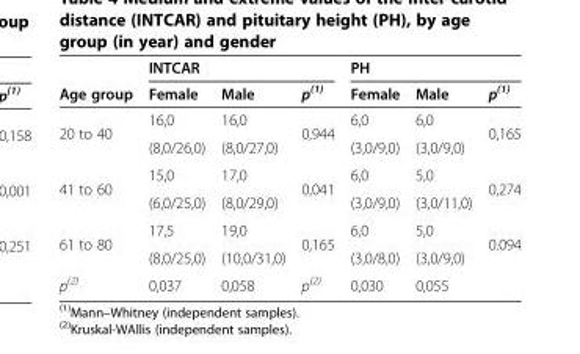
<table><thead><tr><td rowspan="2">Age group</td><td colspan="3">INTCAR</td><td colspan="3">PH</td></tr><tr><td>Female</td><td>Male</td><td>p<sup>(1)</sup></td><td>Female</td><td>Male</td><td>p<sup>(1)</sup></td></tr></thead><tbody><tr><td rowspan="2">20 to 40</td><td>16,0</td><td>16,0</td><td rowspan="2">0,944</td><td>6,0</td><td>6,0</td><td rowspan="2">0,165</td></tr><tr><td>(8,0/26,0)</td><td>(8,0/27,0)</td><td>(3,0/9,0)</td><td>(3,0/9,0)</td></tr><tr><td rowspan="2">41 to 60</td><td>15,0</td><td>17,0</td><td rowspan="2">0,041</td><td>6,0</td><td>5,0</td><td rowspan="2">0,274</td></tr><tr><td>(6,0/25,0)</td><td>(8,0/29,0)</td><td>(3,0/9,0)</td><td>(3,0/11,0)</td></tr><tr><td rowspan="2">61 to 80</td><td>17,5</td><td>19,0</td><td rowspan="2">0,165</td><td>6,0</td><td>5,0</td><td rowspan="2">0.094</td></tr><tr><td>(8,0/25,0)</td><td>(10,0/31,0)</td><td>(3,0/8,0)</td><td>(3,0/9,0)</td></tr><tr><td>p<sup>(2)</sup></td><td>0,037</td><td>0,058</td><td>p<sup>(2)</sup></td><td>0,030</td><td>0,055</td><td></td></tr></tbody></table>